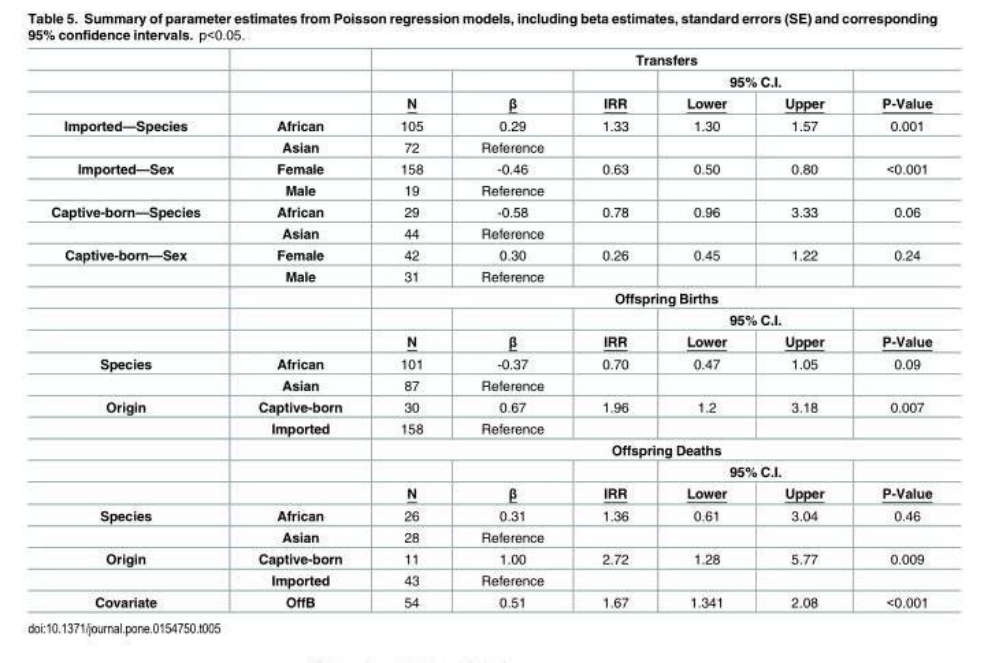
<table><thead><tr><td rowspan="3"></td><td rowspan="3"></td><td colspan="6">Transfers</td></tr><tr><td rowspan="2">N</td><td rowspan="2">β</td><td rowspan="2">IRR</td><td colspan="2">95% C.I.</td><td rowspan="2">P-Value</td></tr><tr><td>Lower</td><td>Upper</td></tr></thead><tbody><tr><td rowspan="2">Imported—Species</td><td>African</td><td>105</td><td>0.29</td><td>1.33</td><td>1.30</td><td>1.57</td><td>0.001</td></tr><tr><td>Asian</td><td>72</td><td>Reference</td><td></td><td></td><td></td><td></td></tr><tr><td rowspan="2">Imported—Sex</td><td>Female</td><td>158</td><td>-0.46</td><td>0.63</td><td>0.50</td><td>0.80</td><td>&lt;0.001</td></tr><tr><td>Male</td><td>19</td><td>Reference</td><td></td><td></td><td></td><td></td></tr><tr><td rowspan="2">Captive-born—Species</td><td>African</td><td>29</td><td>-0.58</td><td>0.78</td><td>0.96</td><td>3.33</td><td>0.06</td></tr><tr><td>Asian</td><td>44</td><td>Reference</td><td></td><td></td><td></td><td></td></tr><tr><td rowspan="5">Captive-born—Sex</td><td>Female</td><td>42</td><td>0.30</td><td>0.26</td><td>0.45</td><td>1.22</td><td>0.24</td></tr><tr><td>Male</td><td>31</td><td>Reference</td><td></td><td></td><td></td><td></td></tr><tr><td></td><td colspan="6">Offspring Births</td></tr><tr><td></td><td></td><td></td><td></td><td colspan="2">95% C.I.</td><td></td></tr><tr><td></td><td>N</td><td>β</td><td>IRR</td><td>Lower</td><td>Upper</td><td>P-Value</td></tr><tr><td rowspan="2">Species</td><td>African</td><td>101</td><td>-0.37</td><td>0.70</td><td>0.47</td><td>1.05</td><td>0.09</td></tr><tr><td>Asian</td><td>87</td><td>Reference</td><td></td><td></td><td></td><td></td></tr><tr><td rowspan="5">Origin</td><td>Captive-born</td><td>30</td><td>0.67</td><td>1.96</td><td>1.2</td><td>3.18</td><td>0.007</td></tr><tr><td>Imported</td><td>158</td><td>Reference</td><td></td><td></td><td></td><td></td></tr><tr><td></td><td colspan="6">Offspring Deaths</td></tr><tr><td></td><td></td><td></td><td></td><td colspan="2">95% C.I.</td><td></td></tr><tr><td></td><td>N</td><td>β</td><td>IRR</td><td>Lower</td><td>Upper</td><td>P-Value</td></tr><tr><td rowspan="2">Species</td><td>African</td><td>26</td><td>0.31</td><td>1.36</td><td>0.61</td><td>3.04</td><td>0.46</td></tr><tr><td>Asian</td><td>28</td><td>Reference</td><td></td><td></td><td></td><td></td></tr><tr><td rowspan="2">Origin</td><td>Captive-born</td><td>11</td><td>1.00</td><td>2.72</td><td>1.28</td><td>5.77</td><td>0.009</td></tr><tr><td>Imported</td><td>43</td><td>Reference</td><td></td><td></td><td></td><td></td></tr><tr><td>Covariate</td><td>OffB</td><td>54</td><td>0.51</td><td>1.67</td><td>1.341</td><td>2.08</td><td>&lt;0.001</td></tr></tbody></table>